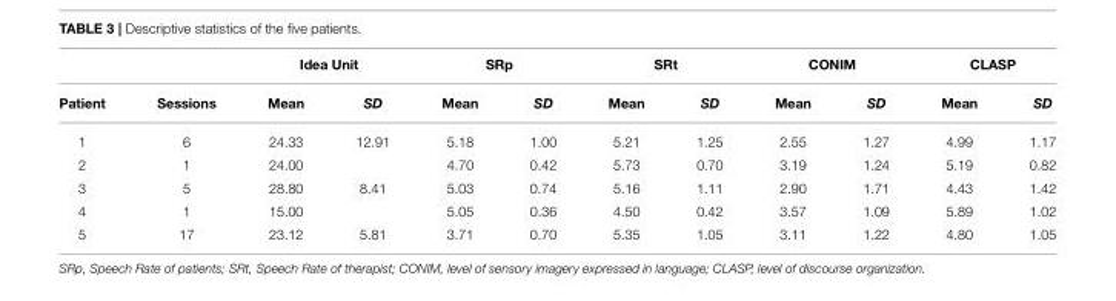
<table><thead><tr><td rowspan="2">Patient</td><td rowspan="2">Sessions</td><td colspan="2">Idea Unit</td><td colspan="2">SRp</td><td colspan="2">SRt</td><td colspan="2">CONIM</td><td colspan="2">CLASP</td></tr><tr><td>Mean</td><td>SD</td><td>Mean</td><td>SD</td><td>Mean</td><td>SD</td><td>Mean</td><td>SD</td><td>Mean</td><td>SD</td></tr></thead><tbody><tr><td>1</td><td>6</td><td>24.33</td><td>12.91</td><td>5.18</td><td>1.00</td><td>5.21</td><td>1.25</td><td>2.55</td><td>1.27</td><td>4.99</td><td>1.17</td></tr><tr><td>2</td><td>1</td><td>24.00</td><td></td><td>4.70</td><td>0.42</td><td>5.73</td><td>0.70</td><td>3.19</td><td>1.24</td><td>5.19</td><td>0.82</td></tr><tr><td>3</td><td>5</td><td>28.80</td><td>8.41</td><td>5.03</td><td>0.74</td><td>5.16</td><td>1.11</td><td>2.90</td><td>1.71</td><td>4.43</td><td>1.42</td></tr><tr><td>4</td><td>1</td><td>15.00</td><td></td><td>5.05</td><td>0.36</td><td>4.50</td><td>0.42</td><td>3.57</td><td>1.09</td><td>5.89</td><td>1.02</td></tr><tr><td>5</td><td>17</td><td>23.12</td><td>5.81</td><td>3.71</td><td>0.70</td><td>5.35</td><td>1.05</td><td>3.11</td><td>1.22</td><td>4.80</td><td>1.05</td></tr></tbody></table>